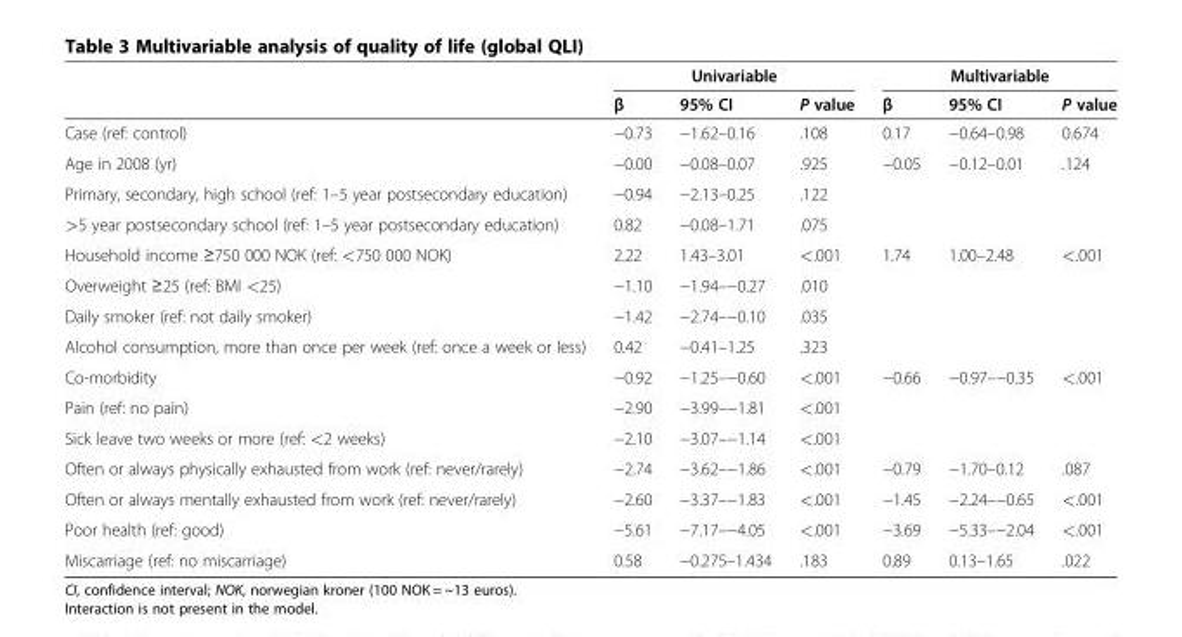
<table><thead><tr><td rowspan="2"></td><td colspan="3">Univariable</td><td colspan="3">Multivariable</td></tr><tr><td>β</td><td>95% CI</td><td>P value</td><td>β</td><td>95% CI</td><td>P value</td></tr></thead><tbody><tr><td>Case (ref: control)</td><td>−0.73</td><td>−1.62–0.16</td><td>.108</td><td>0.17</td><td>−0.64–0.98</td><td>0.674</td></tr><tr><td>Age in 2008 (yr)</td><td>−0.00</td><td>−0.08–0.07</td><td>.925</td><td>−0.05</td><td>−0.12–0.01</td><td>.124</td></tr><tr><td>Primary, secondary, high school (ref: 1–5 year postsecondary education)</td><td>−0.94</td><td>−2.13–0.25</td><td>.122</td><td></td><td></td><td></td></tr><tr><td>&gt;5 year postsecondary school (ref: 1–5 year postsecondary education)</td><td>0.82</td><td>−0.08–1.71</td><td>.075</td><td></td><td></td><td></td></tr><tr><td>Household income ≥750 000 NOK (ref: &lt;750 000 NOK)</td><td>2.22</td><td>1.43–3.01</td><td>&lt;.001</td><td>1.74</td><td>1.00–2.48</td><td>&lt;.001</td></tr><tr><td>Overweight ≥25 (ref: BMI &lt;25)</td><td>−1.10</td><td>−1.94–−0.27</td><td>.010</td><td></td><td></td><td></td></tr><tr><td>Daily smoker (ref: not daily smoker)</td><td>−1.42</td><td>−2.74–−0.10</td><td>.035</td><td></td><td></td><td></td></tr><tr><td>Alcohol consumption, more than once per week (ref: once a week or less)</td><td>0.42</td><td>−0.41–1.25</td><td>.323</td><td></td><td></td><td></td></tr><tr><td>Co-morbidity</td><td>−0.92</td><td>−1.25–−0.60</td><td>&lt;.001</td><td>−0.66</td><td>−0.97–−0.35</td><td>&lt;.001</td></tr><tr><td>Pain (ref: no pain)</td><td>−2.90</td><td>−3.99–−1.81</td><td>&lt;.001</td><td></td><td></td><td></td></tr><tr><td>Sick leave two weeks or more (ref: &lt;2 weeks)</td><td>−2.10</td><td>−3.07–−1.14</td><td>&lt;.001</td><td></td><td></td><td></td></tr><tr><td>Often or always physically exhausted from work (ref: never/rarely)</td><td>−2.74</td><td>−3.62–−1.86</td><td>&lt;.001</td><td>−0.79</td><td>−1.70–0.12</td><td>.087</td></tr><tr><td>Often or always mentally exhausted from work (ref: never/rarely)</td><td>−2.60</td><td>−3.37–−1.83</td><td>&lt;.001</td><td>−1.45</td><td>−2.24–−0.65</td><td>&lt;.001</td></tr><tr><td>Poor health (ref: good)</td><td>−5.61</td><td>−7.17–−4.05</td><td>&lt;.001</td><td>−3.69</td><td>−5.33–−2.04</td><td>&lt;.001</td></tr><tr><td>Miscarriage (ref: no miscarriage)</td><td>0.58</td><td>−0.275–1.434</td><td>.183</td><td>0.89</td><td>0.13–1.65</td><td>.022</td></tr></tbody></table>